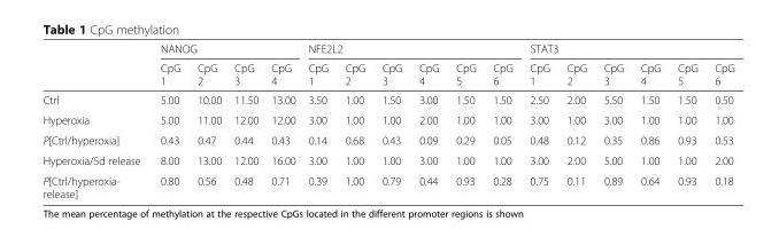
<table><thead><tr><td rowspan="2"></td><td colspan="4">NANOG</td><td colspan="6">NFE2L2</td><td colspan="6">STAT3</td></tr><tr><td>CpG 1</td><td>CpG 2</td><td>CpG 3</td><td>CpG 4</td><td>CpG 1</td><td>CpG 2</td><td>CpG 3</td><td>CpG 4</td><td>CpG 5</td><td>CpG 6</td><td>CpG 1</td><td>CpG 2</td><td>CpG 3</td><td>CpG 4</td><td>CpG 5</td><td>CpG 6</td></tr></thead><tbody><tr><td>Ctrl</td><td>5.00</td><td>10.00</td><td>11.50</td><td>13.00</td><td>3.50</td><td>1.00</td><td>1.50</td><td>3.00</td><td>1.50</td><td>1.50</td><td>2.50</td><td>2.00</td><td>5.50</td><td>1.50</td><td>1.50</td><td>0.50</td></tr><tr><td>Hyperoxia</td><td>5.00</td><td>11.00</td><td>12.00</td><td>12.00</td><td>3.00</td><td>1.00</td><td>1.00</td><td>2.00</td><td>1.00</td><td>1.00</td><td>3.00</td><td>1.00</td><td>3.00</td><td>1.00</td><td>1.00</td><td>1.00</td></tr><tr><td>P[Ctrl/hyperoxia]</td><td>0.43</td><td>0.47</td><td>0.44</td><td>0.43</td><td>0.14</td><td>0.68</td><td>0.43</td><td>0.09</td><td>0.29</td><td>0.05</td><td>0.48</td><td>0.12</td><td>0.35</td><td>0.86</td><td>0.93</td><td>0.53</td></tr><tr><td>Hyperoxia/5d release</td><td>8.00</td><td>13.00</td><td>12.00</td><td>16.00</td><td>3.00</td><td>1.00</td><td>1.00</td><td>3.00</td><td>1.00</td><td>1.00</td><td>3.00</td><td>2.00</td><td>5.00</td><td>1.00</td><td>1.00</td><td>2.00</td></tr><tr><td>P[Ctrl/hyperoxia- release]</td><td>0.80</td><td>0.56</td><td>0.48</td><td>0.71</td><td>0.39</td><td>1.00</td><td>0.79</td><td>0.44</td><td>0.93</td><td>0.28</td><td>0.75</td><td>0.11</td><td>0.89</td><td>0.64</td><td>0.93</td><td>0.18</td></tr></tbody></table>